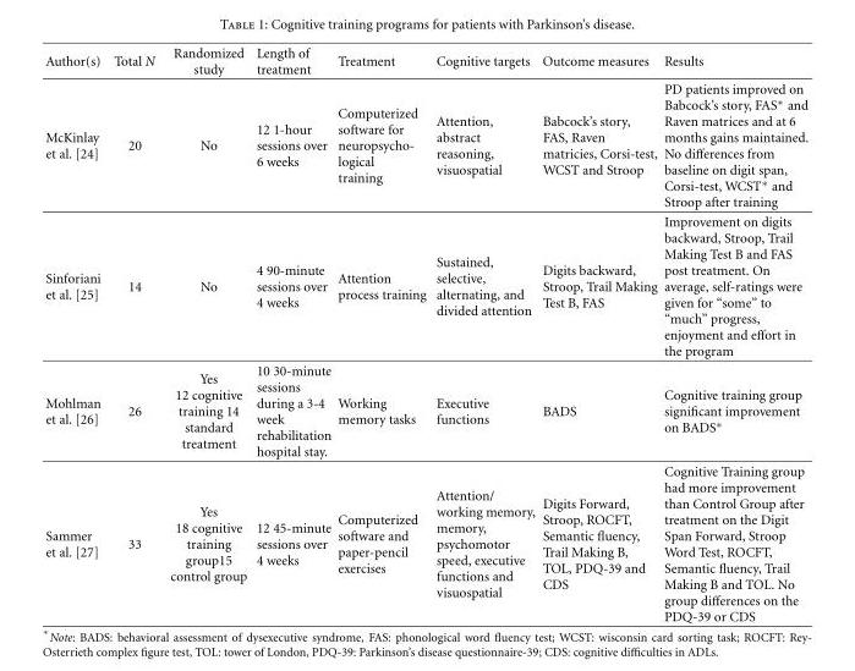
<table><thead><tr><td>Author(s)</td><td>Total N</td><td>Randomized study</td><td>Length of treatment</td><td>Treatment</td><td>Cognitive targets</td><td>Outcome measures</td><td>Results</td></tr></thead><tbody><tr><td>McKinlay et al. [24]</td><td>20</td><td>No</td><td>12 1-hour sessions over 6 weeks</td><td>Computerized software for neuropsycho- logical training</td><td>Attention, abstract reasoning, visuospatial</td><td>Babcock’s story, FAS, Raven matricies, Corsi-test, WCST and Stroop</td><td>PD patients improved on Babcock’s story, FAS∗ and Raven matrices and at 6 months gains maintained. No differences from baseline on digit span, Corsi-test, WCST∗ and Stroop after training</td></tr><tr><td>Sinforiani et al. [25]</td><td>14</td><td>No</td><td>4 90-minute sessions over 4 weeks</td><td>Attention process training</td><td>Sustained, selective, alternating, and divided attention</td><td>Digits backward, Stroop, Trail Making Test B, FAS</td><td>Improvement on digits backward, Stroop, Trail Making Test B and FAS post treatment. On average, self-ratings were given for “some” to “much” progress, enjoyment and effort in the program</td></tr><tr><td>Mohlman et al. [26]</td><td>26</td><td>Yes 12 cognitive training 14 standard treatment</td><td>10 30-minute sessions during a 3-4 week rehabilitation hospital stay.</td><td>Working memory tasks</td><td>Executive functions</td><td>BADS</td><td>Cognitive training group significant improvement on BADS∗</td></tr><tr><td>Sammer et al. [27]</td><td>33</td><td>Yes 18 cognitive training group15 control group</td><td>12 45-minute sessions over 4 weeks</td><td>Computerized software and paper-pencil exercises</td><td>Attention/ working memory, memory, psychomotor speed, executive functions and visuospatial</td><td>Digits Forward, Stroop, ROCFT, Semantic fluency, Trail Making B, TOL, PDQ-39 and CDS</td><td>Cognitive Training group had more improvement than Control Group after treatment on the Digit Span Forward, Stroop Word Test, ROCFT, Semantic fluency, Trail Making B and TOL. No group differences on the PDQ-39 or CDS</td></tr></tbody></table>